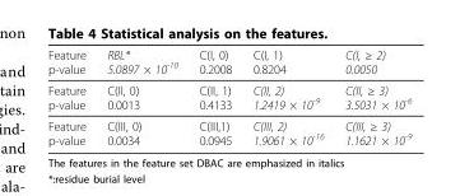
<table><thead><tr><td>Feature p-value</td><td>RBL* 5.0897 × 10<sup>-10</sup></td><td>C(I, 0) 0.2008</td><td>C(I, 1) 0.8204</td><td>C(I, ≥ 2) 0.0050</td></tr></thead><tbody><tr><td>Feature p-value</td><td>C(II, 0) 0.0013</td><td>C(II, 1) 0.4133</td><td>C(II, 2) 1.2419 × 10<sup>-9</sup></td><td>C(II, ≥ 3) 3.5031 × 10<sup>-6</sup></td></tr><tr><td>Feature p-value</td><td>C(III, 0) 0.0034</td><td>C(III,1) 0.0945</td><td>C(III, 2) 1.9061 × 10<sup>-16</sup></td><td>C(III, ≥ 3) 1.1621 × 10<sup>-9</sup></td></tr></tbody></table>